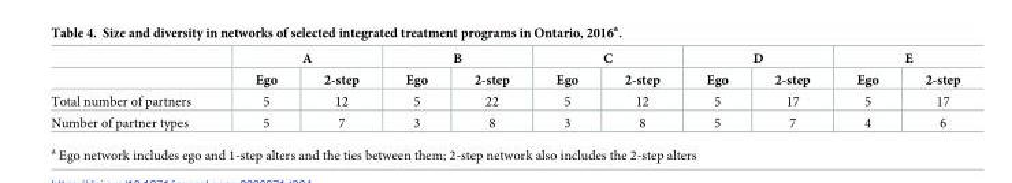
<table><thead><tr><td rowspan="2"></td><td colspan="2">A</td><td colspan="2">B</td><td colspan="2">C</td><td colspan="2">D</td><td colspan="2">E</td></tr><tr><td>Ego</td><td>2-step</td><td>Ego</td><td>2-step</td><td>Ego</td><td>2-step</td><td>Ego</td><td>2-step</td><td>Ego</td><td>2-step</td></tr></thead><tbody><tr><td>Total number of partners</td><td>5</td><td>12</td><td>5</td><td>22</td><td>5</td><td>12</td><td>5</td><td>17</td><td>5</td><td>17</td></tr><tr><td>Number of partner types</td><td>5</td><td>7</td><td>3</td><td>8</td><td>3</td><td>8</td><td>5</td><td>7</td><td>4</td><td>6</td></tr></tbody></table>